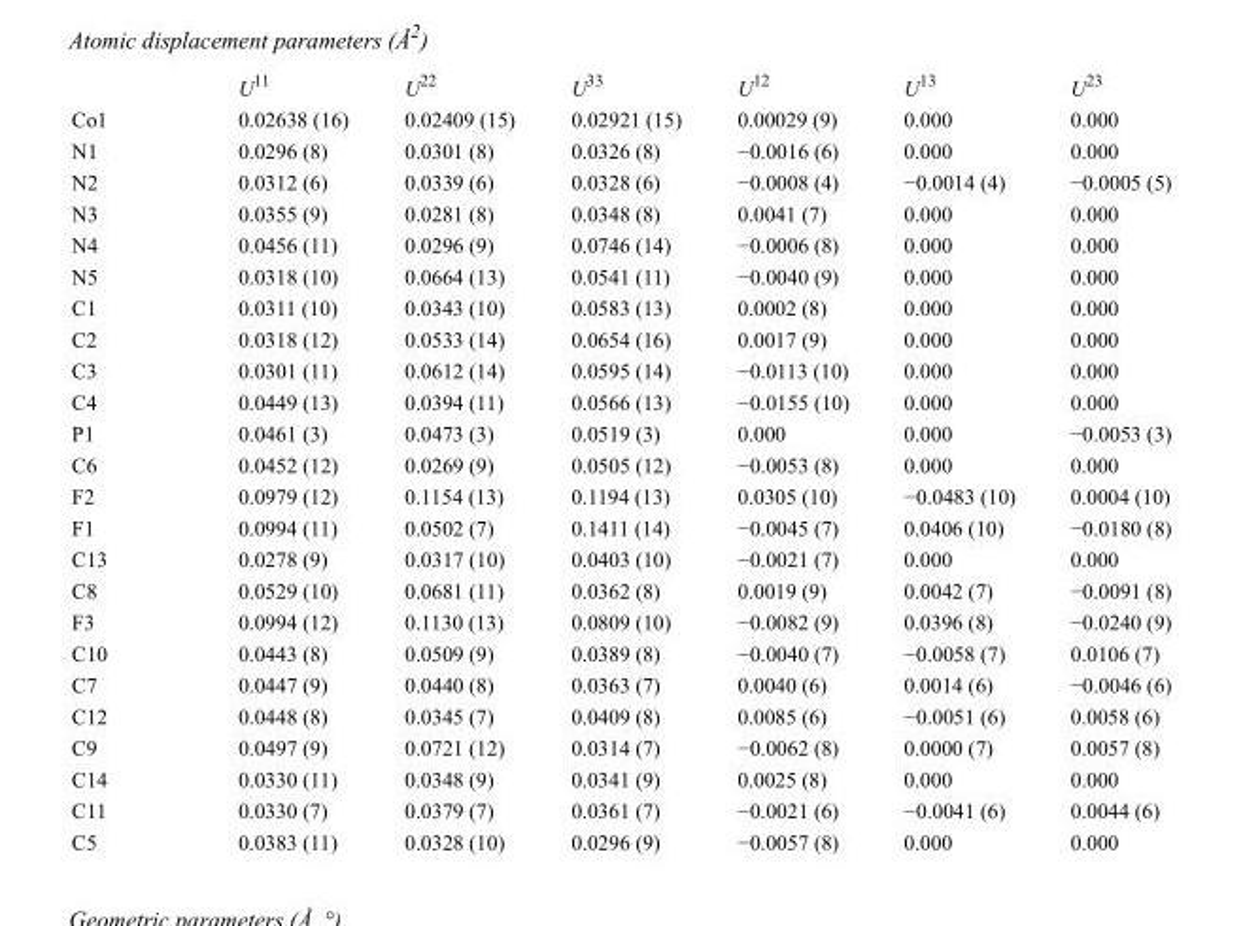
<table><thead><tr><td></td><td>U<sup>11</sup></td><td>U<sup>22</sup></td><td>U<sup>33</sup></td><td>U<sup>12</sup></td><td>U<sup>13</sup></td><td>U<sup>23</sup></td></tr></thead><tbody><tr><td>Co1</td><td>0.02638 (16)</td><td>0.02409 (15)</td><td>0.02921 (15)</td><td>0.00029 (9)</td><td>0.000</td><td>0.000</td></tr><tr><td>N1</td><td>0.0296 (8)</td><td>0.0301 (8)</td><td>0.0326 (8)</td><td>−0.0016 (6)</td><td>0.000</td><td>0.000</td></tr><tr><td>N2</td><td>0.0312 (6)</td><td>0.0339 (6)</td><td>0.0328 (6)</td><td>−0.0008 (4)</td><td>−0.0014 (4)</td><td>−0.0005 (5)</td></tr><tr><td>N3</td><td>0.0355 (9)</td><td>0.0281 (8)</td><td>0.0348 (8)</td><td>0.0041 (7)</td><td>0.000</td><td>0.000</td></tr><tr><td>N4</td><td>0.0456 (11)</td><td>0.0296 (9)</td><td>0.0746 (14)</td><td>−0.0006 (8)</td><td>0.000</td><td>0.000</td></tr><tr><td>N5</td><td>0.0318 (10)</td><td>0.0664 (13)</td><td>0.0541 (11)</td><td>−0.0040 (9)</td><td>0.000</td><td>0.000</td></tr><tr><td>C1</td><td>0.0311 (10)</td><td>0.0343 (10)</td><td>0.0583 (13)</td><td>0.0002 (8)</td><td>0.000</td><td>0.000</td></tr><tr><td>C2</td><td>0.0318 (12)</td><td>0.0533 (14)</td><td>0.0654 (16)</td><td>0.0017 (9)</td><td>0.000</td><td>0.000</td></tr><tr><td>C3</td><td>0.0301 (11)</td><td>0.0612 (14)</td><td>0.0595 (14)</td><td>−0.0113 (10)</td><td>0.000</td><td>0.000</td></tr><tr><td>C4</td><td>0.0449 (13)</td><td>0.0394 (11)</td><td>0.0566 (13)</td><td>−0.0155 (10)</td><td>0.000</td><td>0.000</td></tr><tr><td>P1</td><td>0.0461 (3)</td><td>0.0473 (3)</td><td>0.0519 (3)</td><td>0.000</td><td>0.000</td><td>−0.0053 (3)</td></tr><tr><td>C6</td><td>0.0452 (12)</td><td>0.0269 (9)</td><td>0.0505 (12)</td><td>−0.0053 (8)</td><td>0.000</td><td>0.000</td></tr><tr><td>F2</td><td>0.0979 (12)</td><td>0.1154 (13)</td><td>0.1194 (13)</td><td>0.0305 (10)</td><td>−0.0483 (10)</td><td>0.0004 (10)</td></tr><tr><td>F1</td><td>0.0994 (11)</td><td>0.0502 (7)</td><td>0.1411 (14)</td><td>−0.0045 (7)</td><td>0.0406 (10)</td><td>−0.0180 (8)</td></tr><tr><td>C13</td><td>0.0278 (9)</td><td>0.0317 (10)</td><td>0.0403 (10)</td><td>−0.0021 (7)</td><td>0.000</td><td>0.000</td></tr><tr><td>C8</td><td>0.0529 (10)</td><td>0.0681 (11)</td><td>0.0362 (8)</td><td>0.0019 (9)</td><td>0.0042 (7)</td><td>−0.0091 (8)</td></tr><tr><td>F3</td><td>0.0994 (12)</td><td>0.1130 (13)</td><td>0.0809 (10)</td><td>−0.0082 (9)</td><td>0.0396 (8)</td><td>−0.0240 (9)</td></tr><tr><td>C10</td><td>0.0443 (8)</td><td>0.0509 (9)</td><td>0.0389 (8)</td><td>−0.0040 (7)</td><td>−0.0058 (7)</td><td>0.0106 (7)</td></tr><tr><td>C7</td><td>0.0447 (9)</td><td>0.0440 (8)</td><td>0.0363 (7)</td><td>0.0040 (6)</td><td>0.0014 (6)</td><td>−0.0046 (6)</td></tr><tr><td>C12</td><td>0.0448 (8)</td><td>0.0345 (7)</td><td>0.0409 (8)</td><td>0.0085 (6)</td><td>−0.0051 (6)</td><td>0.0058 (6)</td></tr><tr><td>C9</td><td>0.0497 (9)</td><td>0.0721 (12)</td><td>0.0314 (7)</td><td>−0.0062 (8)</td><td>0.0000 (7)</td><td>0.0057 (8)</td></tr><tr><td>C14</td><td>0.0330 (11)</td><td>0.0348 (9)</td><td>0.0341 (9)</td><td>0.0025 (8)</td><td>0.000</td><td>0.000</td></tr><tr><td>C11</td><td>0.0330 (7)</td><td>0.0379 (7)</td><td>0.0361 (7)</td><td>−0.0021 (6)</td><td>−0.0041 (6)</td><td>0.0044 (6)</td></tr><tr><td>C5</td><td>0.0383 (11)</td><td>0.0328 (10)</td><td>0.0296 (9)</td><td>−0.0057 (8)</td><td>0.000</td><td>0.000</td></tr></tbody></table>